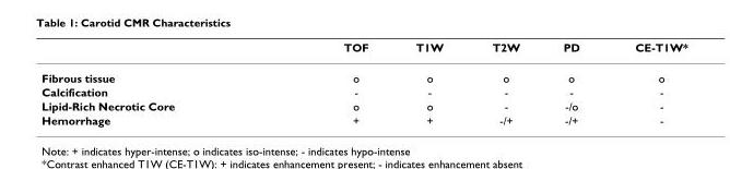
<table><thead><tr><td></td><td>TOF</td><td>T1W</td><td>T2W</td><td>PD</td><td>CE-T1W*</td></tr></thead><tbody><tr><td>Fibrous tissue</td><td>o</td><td>o</td><td>o</td><td>o</td><td>o</td></tr><tr><td>Calcification</td><td>-</td><td>-</td><td>-</td><td>-</td><td>-</td></tr><tr><td>Lipid-Rich Necrotic Core</td><td>o</td><td>o</td><td>-</td><td>-/o</td><td>-</td></tr><tr><td>Hemorrhage</td><td>+</td><td>+</td><td>-/+</td><td>-/+</td><td>-</td></tr></tbody></table>